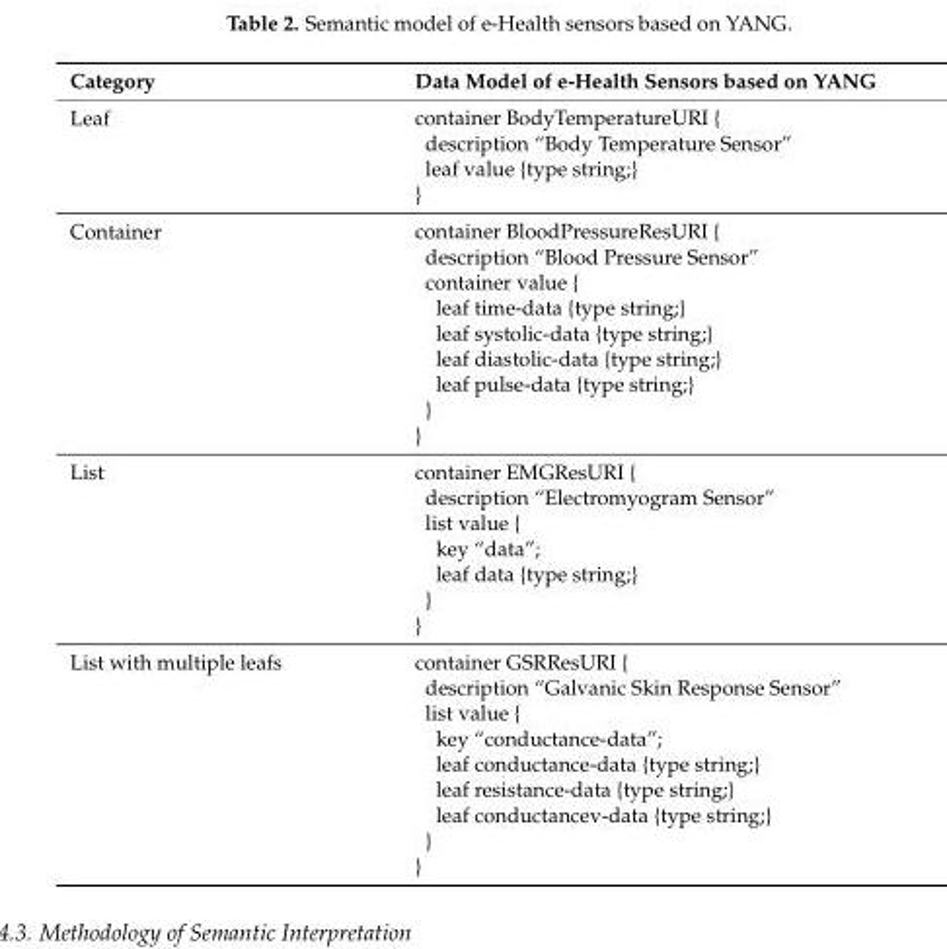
<table><thead><tr><td>Category</td><td>Data Model of e-Health Sensors based on YANG</td></tr></thead><tbody><tr><td>Leaf</td><td>container BodyTemperatureURI { description “Body Temperature Sensor” leaf value {type string;} }</td></tr><tr><td>Container</td><td>container BloodPressureResURI { description “Blood Pressure Sensor” container value { leaf time-data {type string;} leaf systolic-data {type string;} leaf diastolic-data {type string;} leaf pulse-data {type string;} } }</td></tr><tr><td>List</td><td>container EMGResURI { description “Electromyogram Sensor” list value { key “data”; leaf data {type string;} } }</td></tr><tr><td>List with multiple leafs</td><td>container GSRResURI { description “Galvanic Skin Response Sensor” list value { key “conductance-data”; leaf conductance-data {type string;} leaf resistance-data {type string;} leaf conductancev-data {type string;} } }</td></tr></tbody></table>